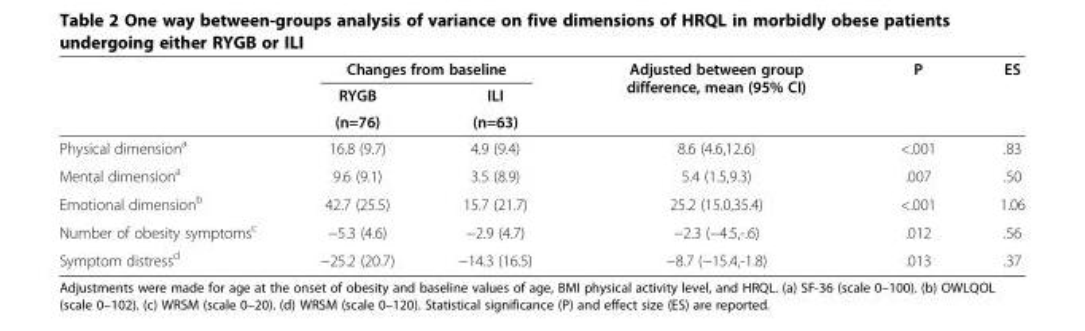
<table><thead><tr><td rowspan="3"></td><td colspan="2">Changes from baseline</td><td rowspan="3">Adjusted between group difference, mean (95% CI)</td><td rowspan="3">P</td><td rowspan="3">ES</td></tr><tr><td rowspan="2">RYGB (n=76)</td><td rowspan="2">ILI (n=63)</td></tr><tr></tr></thead><tbody><tr><td>Physical dimension<sup>a</sup></td><td>16.8 (9.7)</td><td>4.9 (9.4)</td><td>8.6 (4.6,12.6)</td><td>&lt;.001</td><td>.83</td></tr><tr><td>Mental dimension<sup>a</sup></td><td>9.6 (9.1)</td><td>3.5 (8.9)</td><td>5.4 (1.5,9.3)</td><td>.007</td><td>.50</td></tr><tr><td>Emotional dimension<sup>b</sup></td><td>42.7 (25.5)</td><td>15.7 (21.7)</td><td>25.2 (15.0,35.4)</td><td>&lt;.001</td><td>1.06</td></tr><tr><td>Number of obesity symptoms<sup>c</sup></td><td>−5.3 (4.6)</td><td>−2.9 (4.7)</td><td>−2.3 (−4.5,-.6)</td><td>.012</td><td>.56</td></tr><tr><td>Symptom distress<sup>d</sup></td><td>−25.2 (20.7)</td><td>−14.3 (16.5)</td><td>−8.7 (−15.4,-1.8)</td><td>.013</td><td>.37</td></tr></tbody></table>